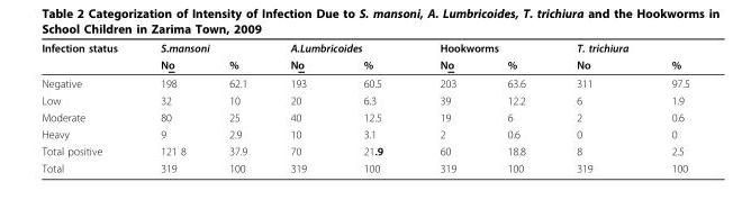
<table><thead><tr><td rowspan="2">Infection status</td><td colspan="2">S.mansoni</td><td colspan="2">A.Lumbricoides</td><td colspan="2">Hookworms</td><td rowspan="2">T. trichiura No</td><td rowspan="2">%</td></tr><tr><td>No</td><td>%</td><td>No</td><td>%</td><td>No</td><td>%</td></tr></thead><tbody><tr><td>Negative</td><td>198</td><td>62.1</td><td>193</td><td>60.5</td><td>203</td><td>63.6</td><td>311</td><td>97.5</td></tr><tr><td>Low</td><td>32</td><td>10</td><td>20</td><td>6.3</td><td>39</td><td>12.2</td><td>6</td><td>1.9</td></tr><tr><td>Moderate</td><td>80</td><td>25</td><td>40</td><td>12.5</td><td>19</td><td>6</td><td>2</td><td>0.6</td></tr><tr><td>Heavy</td><td>9</td><td>2.9</td><td>10</td><td>3.1</td><td>2</td><td>0.6</td><td>0</td><td>0</td></tr><tr><td>Total positive</td><td>121 8</td><td>37.9</td><td>70</td><td>21.9</td><td>60</td><td>18.8</td><td>8</td><td>2.5</td></tr><tr><td>Total</td><td>319</td><td>100</td><td>319</td><td>100</td><td>319</td><td>100</td><td>319</td><td>100</td></tr></tbody></table>